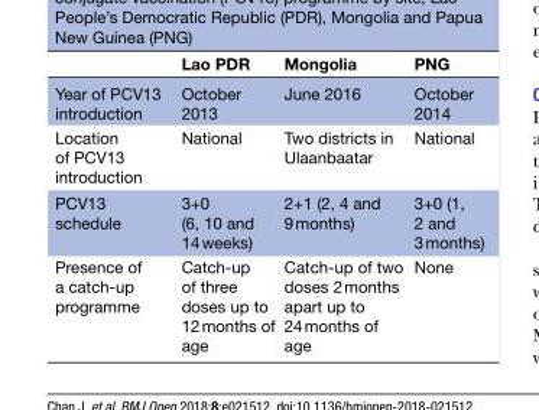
<table><thead><tr><td></td><td>Lao PDR</td><td>Mongolia</td><td>PNG</td></tr></thead><tbody><tr><td>Year of PCV13 introduction</td><td>October 2013</td><td>June 2016</td><td>October 2014</td></tr><tr><td>Location of PCV13 introduction</td><td>National</td><td>Two districts in Ulaanbaatar</td><td>National</td></tr><tr><td>PCV13 schedule</td><td>3+0 (6, 10 and 14 weeks)</td><td>2+1 (2, 4 and 9 months)</td><td>3+0 (1, 2 and 3 months)</td></tr><tr><td>Presence of a catch-up programme</td><td>Catch-up of three doses up to 12 months of age</td><td>Catch-up of two doses 2 months apart up to 24 months of age</td><td>None</td></tr></tbody></table>